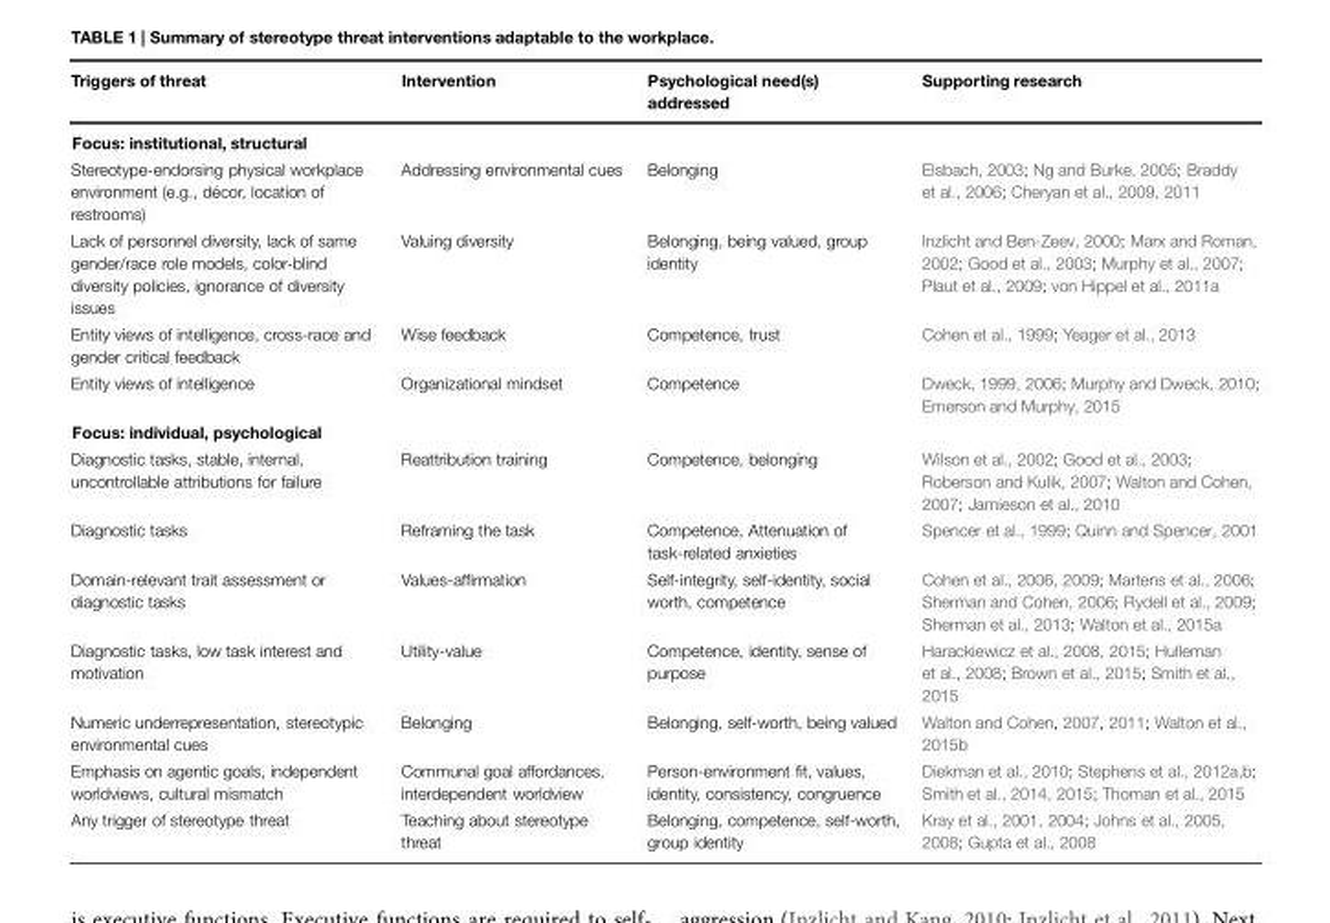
<table><thead><tr><td>Triggers of threat</td><td>Intervention</td><td>Psychological need(s) addressed</td><td>Supporting research</td></tr></thead><tbody><tr><td colspan="4">Focus: institutional, structural</td></tr><tr><td>Stereotype-endorsing physical workplace environment (e.g., décor, location of restrooms)</td><td>Addressing environmental cues</td><td>Belonging</td><td>Elsbach, 2003; Ng and Burke, 2005; Braddy et al., 2006; Cheryan et al., 2009, 2011</td></tr><tr><td>Lack of personnel diversity, lack of same gender/race role models, color-blind diversity policies, ignorance of diversity issues</td><td>Valuing diversity</td><td>Belonging, being valued, group identity</td><td>Inzlicht and Ben-Zeev, 2000; Marx and Roman, 2002; Good et al., 2003; Murphy et al., 2007; Plaut et al., 2009; von Hippel et al., 2011a</td></tr><tr><td>Entity views of intelligence, cross-race and gender critical feedback</td><td>Wise feedback</td><td>Competence, trust</td><td>Cohen et al., 1999; Yeager et al., 2013</td></tr><tr><td>Entity views of intelligence</td><td>Organizational mindset</td><td>Competence</td><td>Dweck, 1999, 2006; Murphy and Dweck, 2010; Emerson and Murphy, 2015</td></tr><tr><td colspan="4">Focus: individual, psychological</td></tr><tr><td>Diagnostic tasks, stable, internal, uncontrollable attributions for failure</td><td>Reattribution training</td><td>Competence, belonging</td><td>Wilson et al., 2002; Good et al., 2003; Roberson and Kulik, 2007; Walton and Cohen, 2007; Jamieson et al., 2010</td></tr><tr><td>Diagnostic tasks</td><td>Reframing the task</td><td>Competence, Attenuation of task-related anxieties</td><td>Spencer et al., 1999; Quinn and Spencer, 2001</td></tr><tr><td>Domain-relevant trait assessment or diagnostic tasks</td><td>Values-affirmation</td><td>Self-integrity, self-identity, social worth, competence</td><td>Cohen et al., 2006, 2009; Martens et al., 2006; Sherman and Cohen, 2006; Rydell et al., 2009; Sherman et al., 2013; Walton et al., 2015a</td></tr><tr><td>Diagnostic tasks, low task interest and motivation</td><td>Utility-value</td><td>Competence, identity, sense of purpose</td><td>Harackiewicz et al., 2008, 2015; Hulleman et al., 2008; Brown et al., 2015; Smith et al., 2015</td></tr><tr><td>Numeric underrepresentation, stereotypic environmental cues</td><td>Belonging</td><td>Belonging, self-worth, being valued</td><td>Walton and Cohen, 2007, 2011; Walton et al., 2015b</td></tr><tr><td>Emphasis on agentic goals, independent worldviews, cultural mismatch</td><td>Communal goal affordances, interdependent worldview</td><td>Person-environment fit, values, identity, consistency, congruence</td><td>Diekman et al., 2010; Stephens et al., 2012a,b; Smith et al., 2014, 2015; Thoman et al., 2015</td></tr><tr><td>Any trigger of stereotype threat</td><td>Teaching about stereotype threat</td><td>Belonging, competence, self-worth, group identity</td><td>Kray et al., 2001, 2004; Johns et al., 2005, 2008; Gupta et al., 2008</td></tr></tbody></table>